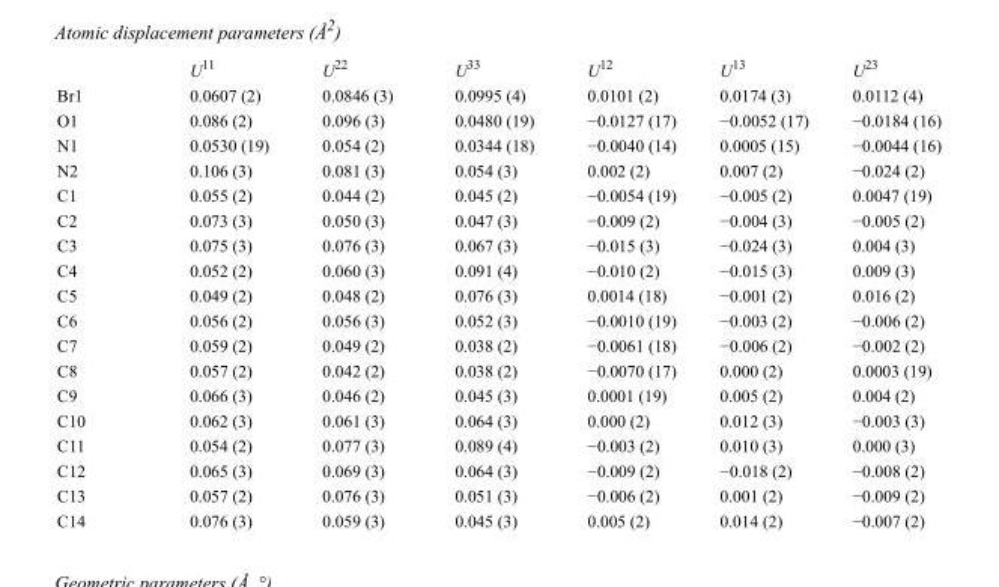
<table><thead><tr><td></td><td>U<sup>11</sup></td><td>U<sup>22</sup></td><td>U<sup>33</sup></td><td>U<sup>12</sup></td><td>U<sup>13</sup></td><td>U<sup>23</sup></td></tr></thead><tbody><tr><td>Br1</td><td>0.0607 (2)</td><td>0.0846 (3)</td><td>0.0995 (4)</td><td>0.0101 (2)</td><td>0.0174 (3)</td><td>0.0112 (4)</td></tr><tr><td>O1</td><td>0.086 (2)</td><td>0.096 (3)</td><td>0.0480 (19)</td><td>−0.0127 (17)</td><td>−0.0052 (17)</td><td>−0.0184 (16)</td></tr><tr><td>N1</td><td>0.0530 (19)</td><td>0.054 (2)</td><td>0.0344 (18)</td><td>−0.0040 (14)</td><td>0.0005 (15)</td><td>−0.0044 (16)</td></tr><tr><td>N2</td><td>0.106 (3)</td><td>0.081 (3)</td><td>0.054 (3)</td><td>0.002 (2)</td><td>0.007 (2)</td><td>−0.024 (2)</td></tr><tr><td>C1</td><td>0.055 (2)</td><td>0.044 (2)</td><td>0.045 (2)</td><td>−0.0054 (19)</td><td>−0.005 (2)</td><td>0.0047 (19)</td></tr><tr><td>C2</td><td>0.073 (3)</td><td>0.050 (3)</td><td>0.047 (3)</td><td>−0.009 (2)</td><td>−0.004 (3)</td><td>−0.005 (2)</td></tr><tr><td>C3</td><td>0.075 (3)</td><td>0.076 (3)</td><td>0.067 (3)</td><td>−0.015 (3)</td><td>−0.024 (3)</td><td>0.004 (3)</td></tr><tr><td>C4</td><td>0.052 (2)</td><td>0.060 (3)</td><td>0.091 (4)</td><td>−0.010 (2)</td><td>−0.015 (3)</td><td>0.009 (3)</td></tr><tr><td>C5</td><td>0.049 (2)</td><td>0.048 (2)</td><td>0.076 (3)</td><td>0.0014 (18)</td><td>−0.001 (2)</td><td>0.016 (2)</td></tr><tr><td>C6</td><td>0.056 (2)</td><td>0.056 (3)</td><td>0.052 (3)</td><td>−0.0010 (19)</td><td>−0.003 (2)</td><td>−0.006 (2)</td></tr><tr><td>C7</td><td>0.059 (2)</td><td>0.049 (2)</td><td>0.038 (2)</td><td>−0.0061 (18)</td><td>−0.006 (2)</td><td>−0.002 (2)</td></tr><tr><td>C8</td><td>0.057 (2)</td><td>0.042 (2)</td><td>0.038 (2)</td><td>−0.0070 (17)</td><td>0.000 (2)</td><td>0.0003 (19)</td></tr><tr><td>C9</td><td>0.066 (3)</td><td>0.046 (2)</td><td>0.045 (3)</td><td>0.0001 (19)</td><td>0.005 (2)</td><td>0.004 (2)</td></tr><tr><td>C10</td><td>0.062 (3)</td><td>0.061 (3)</td><td>0.064 (3)</td><td>0.000 (2)</td><td>0.012 (3)</td><td>−0.003 (3)</td></tr><tr><td>C11</td><td>0.054 (2)</td><td>0.077 (3)</td><td>0.089 (4)</td><td>−0.003 (2)</td><td>0.010 (3)</td><td>0.000 (3)</td></tr><tr><td>C12</td><td>0.065 (3)</td><td>0.069 (3)</td><td>0.064 (3)</td><td>−0.009 (2)</td><td>−0.018 (2)</td><td>−0.008 (2)</td></tr><tr><td>C13</td><td>0.057 (2)</td><td>0.076 (3)</td><td>0.051 (3)</td><td>−0.006 (2)</td><td>0.001 (2)</td><td>−0.009 (2)</td></tr><tr><td>C14</td><td>0.076 (3)</td><td>0.059 (3)</td><td>0.045 (3)</td><td>0.005 (2)</td><td>0.014 (2)</td><td>−0.007 (2)</td></tr></tbody></table>